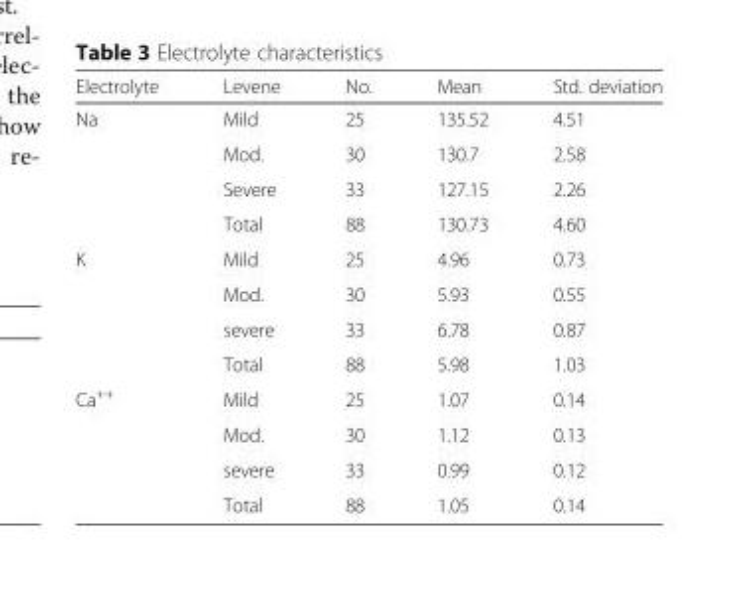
<table><thead><tr><td>Electrolyte</td><td>Levene</td><td>No.</td><td>Mean</td><td>Std. deviation</td></tr></thead><tbody><tr><td rowspan="4">Na</td><td>Mild</td><td>25</td><td>135.52</td><td>4.51</td></tr><tr><td>Mod.</td><td>30</td><td>130.7</td><td>2.58</td></tr><tr><td>Severe</td><td>33</td><td>127.15</td><td>2.26</td></tr><tr><td>Total</td><td>88</td><td>130.73</td><td>4.60</td></tr><tr><td rowspan="4">K</td><td>Mild</td><td>25</td><td>4.96</td><td>0.73</td></tr><tr><td>Mod.</td><td>30</td><td>5.93</td><td>0.55</td></tr><tr><td>severe</td><td>33</td><td>6.78</td><td>0.87</td></tr><tr><td>Total</td><td>88</td><td>5.98</td><td>1.03</td></tr><tr><td rowspan="4">Ca<sup>++</sup></td><td>Mild</td><td>25</td><td>1.07</td><td>0.14</td></tr><tr><td>Mod.</td><td>30</td><td>1.12</td><td>0.13</td></tr><tr><td>severe</td><td>33</td><td>0.99</td><td>0.12</td></tr><tr><td>Total</td><td>88</td><td>1.05</td><td>0.14</td></tr></tbody></table>